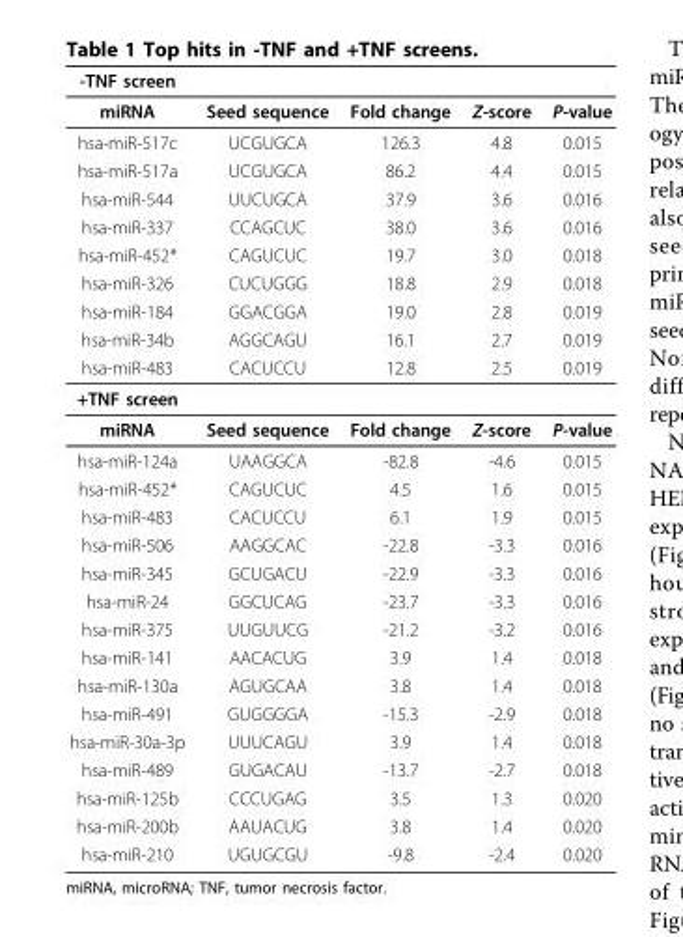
<table><thead><tr><td>-TNF screen</td><td></td><td></td><td></td><td></td></tr></thead><tbody><tr><td>miRNA</td><td>Seed sequence</td><td>Fold change</td><td>Z-score</td><td>P-value</td></tr><tr><td>hsa-miR-517c</td><td>UCGUGCA</td><td>126.3</td><td>4.8</td><td>0.015</td></tr><tr><td>hsa-miR-517a</td><td>UCGUGCA</td><td>86.2</td><td>4.4</td><td>0.015</td></tr><tr><td>hsa-miR-544</td><td>UUCUGCA</td><td>37.9</td><td>3.6</td><td>0.016</td></tr><tr><td>hsa-miR-337</td><td>CCAGCUC</td><td>38.0</td><td>3.6</td><td>0.016</td></tr><tr><td>hsa-miR-452*</td><td>CAGUCUC</td><td>19.7</td><td>3.0</td><td>0.018</td></tr><tr><td>hsa-miR-326</td><td>CUCUGGG</td><td>18.8</td><td>2.9</td><td>0.018</td></tr><tr><td>hsa-miR-184</td><td>GGACGGA</td><td>19.0</td><td>2.8</td><td>0.019</td></tr><tr><td>hsa-miR-34b</td><td>AGGCAGU</td><td>16.1</td><td>2.7</td><td>0.019</td></tr><tr><td>hsa-miR-483</td><td>CACUCCU</td><td>12.8</td><td>2.5</td><td>0.019</td></tr><tr><td colspan="5">+TNF screen</td></tr><tr><td>miRNA</td><td>Seed sequence</td><td>Fold change</td><td>Z-score</td><td>P-value</td></tr><tr><td>hsa-miR-124a</td><td>UAAGGCA</td><td>-82.8</td><td>-4.6</td><td>0.015</td></tr><tr><td>hsa-miR-452*</td><td>CAGUCUC</td><td>4.5</td><td>1.6</td><td>0.015</td></tr><tr><td>hsa-miR-483</td><td>CACUCCU</td><td>6.1</td><td>1.9</td><td>0.015</td></tr><tr><td>hsa-miR-506</td><td>AAGGCAC</td><td>-22.8</td><td>-3.3</td><td>0.016</td></tr><tr><td>hsa-miR-345</td><td>GCUGACU</td><td>-22.9</td><td>-3.3</td><td>0.016</td></tr><tr><td>hsa-miR-24</td><td>GGCUCAG</td><td>-23.7</td><td>-3.3</td><td>0.016</td></tr><tr><td>hsa-miR-375</td><td>UUGUUCG</td><td>-21.2</td><td>-3.2</td><td>0.016</td></tr><tr><td>hsa-miR-141</td><td>AACACUG</td><td>3.9</td><td>1.4</td><td>0.018</td></tr><tr><td>hsa-miR-130a</td><td>AGUGCAA</td><td>3.8</td><td>1.4</td><td>0.018</td></tr><tr><td>hsa-miR-491</td><td>GUGGGGA</td><td>-15.3</td><td>-2.9</td><td>0.018</td></tr><tr><td>hsa-miR-30a-3p</td><td>UUUCAGU</td><td>3.9</td><td>1.4</td><td>0.018</td></tr><tr><td>hsa-miR-489</td><td>GUGACAU</td><td>-13.7</td><td>-2.7</td><td>0.018</td></tr><tr><td>hsa-miR-125b</td><td>CCCUGAG</td><td>3.5</td><td>1.3</td><td>0.020</td></tr><tr><td>hsa-miR-200b</td><td>AAUACUG</td><td>3.8</td><td>1.4</td><td>0.020</td></tr><tr><td>hsa-miR-210</td><td>UGUGCGU</td><td>-9.8</td><td>-2.4</td><td>0.020</td></tr></tbody></table>